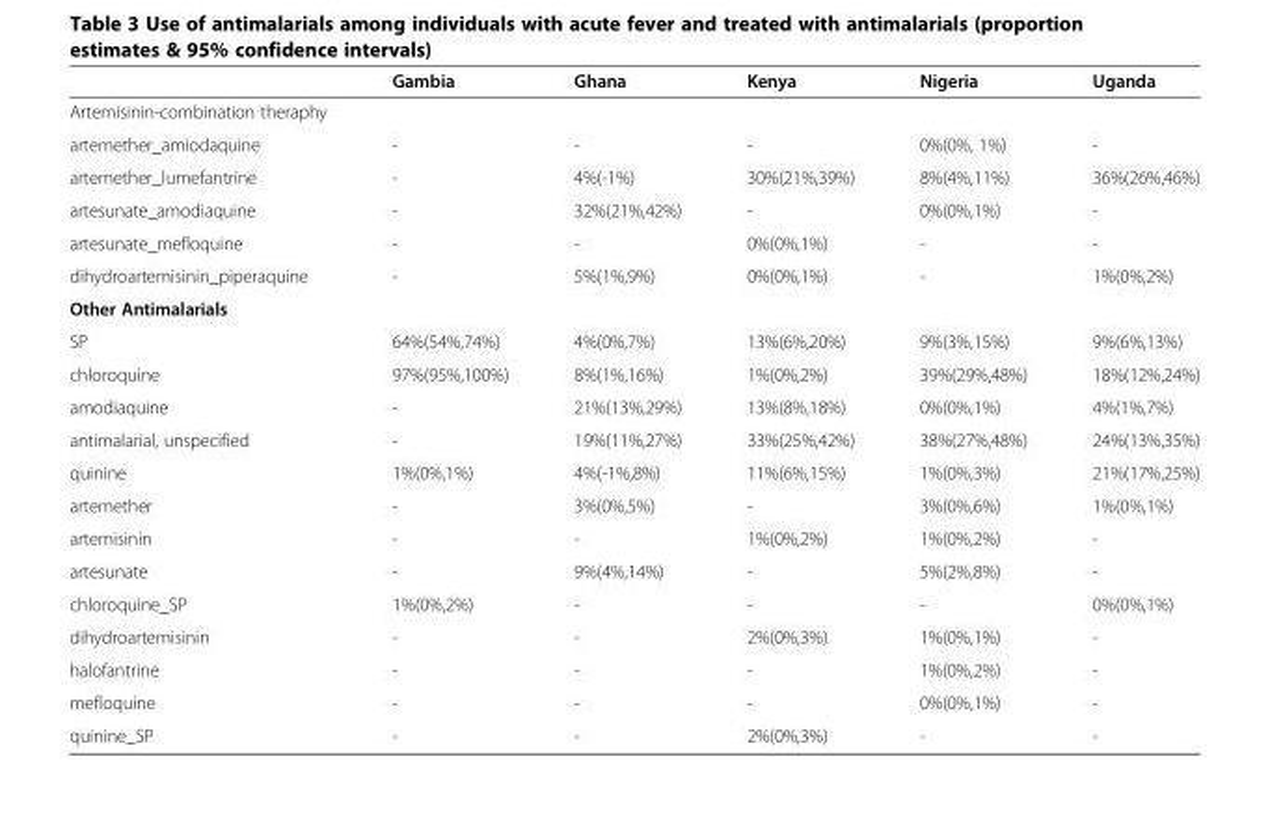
<table><thead><tr><td></td><td>Gambia</td><td>Ghana</td><td>Kenya</td><td>Nigeria</td><td>Uganda</td></tr></thead><tbody><tr><td colspan="6">Artemisinin-combination theraphy</td></tr><tr><td>artemether_amiodaquine</td><td>-</td><td>-</td><td>-</td><td>0%(0%, 1%)</td><td>-</td></tr><tr><td>artemether_lumefantrine</td><td>-</td><td>4%(-1%)</td><td>30%(21%,39%)</td><td>8%(4%,11%)</td><td>36%(26%,46%)</td></tr><tr><td>artesunate_amodiaquine</td><td>-</td><td>32%(21%,42%)</td><td>-</td><td>0%(0%,1%)</td><td>-</td></tr><tr><td>artesunate_mefloquine</td><td>-</td><td>-</td><td>0%(0%,1%)</td><td>-</td><td>-</td></tr><tr><td>dihydroartemisinin_piperaquine</td><td>-</td><td>5%(1%,9%)</td><td>0%(0%,1%)</td><td>-</td><td>1%(0%,2%)</td></tr><tr><td colspan="6">Other Antimalarials</td></tr><tr><td>SP</td><td>64%(54%,74%)</td><td>4%(0%,7%)</td><td>13%(6%,20%)</td><td>9%(3%,15%)</td><td>9%(6%,13%)</td></tr><tr><td>chloroquine</td><td>97%(95%,100%)</td><td>8%(1%,16%)</td><td>1%(0%,2%)</td><td>39%(29%,48%)</td><td>18%(12%,24%)</td></tr><tr><td>amodiaquine</td><td>-</td><td>21%(13%,29%)</td><td>13%(8%,18%)</td><td>0%(0%,1%)</td><td>4%(1%,7%)</td></tr><tr><td>antimalarial, unspecified</td><td>-</td><td>19%(11%,27%)</td><td>33%(25%,42%)</td><td>38%(27%,48%)</td><td>24%(13%,35%)</td></tr><tr><td>quinine</td><td>1%(0%,1%)</td><td>4%(-1%,8%)</td><td>11%(6%,15%)</td><td>1%(0%,3%)</td><td>21%(17%,25%)</td></tr><tr><td>artemether</td><td>-</td><td>3%(0%,5%)</td><td>-</td><td>3%(0%,6%)</td><td>1%(0%,1%)</td></tr><tr><td>artemisinin</td><td>-</td><td>-</td><td>1%(0%,2%)</td><td>1%(0%,2%)</td><td>-</td></tr><tr><td>artesunate</td><td>-</td><td>9%(4%,14%)</td><td>-</td><td>5%(2%,8%)</td><td>-</td></tr><tr><td>chloroquine_SP</td><td>1%(0%,2%)</td><td>-</td><td>-</td><td>-</td><td>0%(0%,1%)</td></tr><tr><td>dihydroartemisinin</td><td>-</td><td>-</td><td>2%(0%,3%)</td><td>1%(0%,1%)</td><td>-</td></tr><tr><td>halofantrine</td><td>-</td><td>-</td><td>-</td><td>1%(0%,2%)</td><td>-</td></tr><tr><td>mefloquine</td><td>-</td><td>-</td><td>-</td><td>0%(0%,1%)</td><td>-</td></tr><tr><td>quinine_SP</td><td>-</td><td>-</td><td>2%(0%,3%)</td><td>-</td><td>-</td></tr></tbody></table>